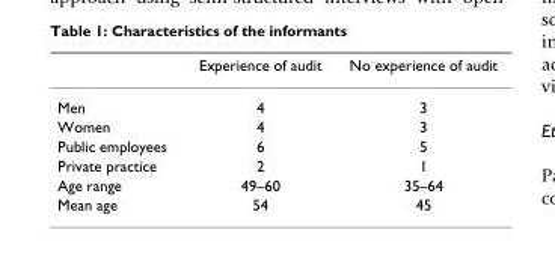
<table><thead><tr><td></td><td>Experience of audit</td><td>No experience of audit</td></tr></thead><tbody><tr><td>Men</td><td>4</td><td>3</td></tr><tr><td>Women</td><td>4</td><td>3</td></tr><tr><td>Public employees</td><td>6</td><td>5</td></tr><tr><td>Private practice</td><td>2</td><td>1</td></tr><tr><td>Age range</td><td>49–60</td><td>35–64</td></tr><tr><td>Mean age</td><td>54</td><td>45</td></tr></tbody></table>